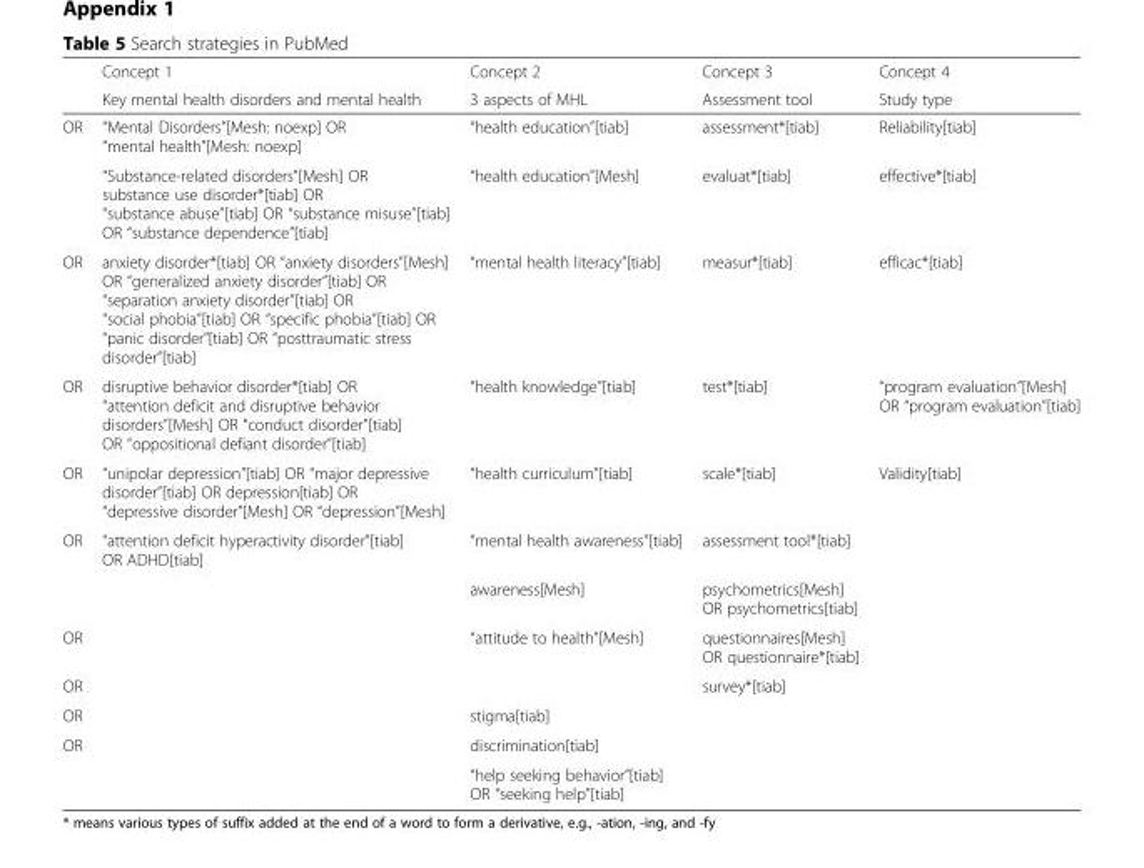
<table><thead><tr><td rowspan="2"></td><td rowspan="2">Concept 1 Key mental health disorders and mental health</td><td rowspan="2">Concept 2 3 aspects of MHL</td><td rowspan="2">Concept 3 Assessment tool</td><td rowspan="2">Concept 4 Study type</td></tr><tr></tr></thead><tbody><tr><td rowspan="2">OR</td><td>“Mental Disorders”[Mesh: noexp] OR “mental health”[Mesh: noexp]</td><td>“health education”[tiab]</td><td>assessment*[tiab]</td><td>Reliability[tiab]</td></tr><tr><td>“Substance-related disorders”[Mesh] OR substance use disorder*[tiab] OR “substance abuse”[tiab] OR “substance misuse”[tiab] OR “substance dependence”[tiab]</td><td>“health education”[Mesh]</td><td>evaluat*[tiab]</td><td>effective*[tiab]</td></tr><tr><td>OR</td><td>anxiety disorder*[tiab] OR “anxiety disorders”[Mesh] OR “generalized anxiety disorder”[tiab] OR “separation anxiety disorder”[tiab] OR “social phobia”[tiab] OR “specific phobia”[tiab] OR “panic disorder”[tiab] OR “posttraumatic stress disorder”[tiab]</td><td>“mental health literacy”[tiab]</td><td>measur*[tiab]</td><td>efficac*[tiab]</td></tr><tr><td>OR</td><td>disruptive behavior disorder*[tiab] OR “attention deficit and disruptive behavior disorders”[Mesh] OR “conduct disorder”[tiab] OR “oppositional defiant disorder”[tiab]</td><td>“health knowledge”[tiab]</td><td>test*[tiab]</td><td>“program evaluation”[Mesh] OR “program evaluation”[tiab]</td></tr><tr><td>OR</td><td>“unipolar depression”[tiab] OR “major depressive disorder”[tiab] OR depression[tiab] OR “depressive disorder”[Mesh] OR “depression”[Mesh]</td><td>“health curriculum”[tiab]</td><td>scale*[tiab]</td><td>Validity[tiab]</td></tr><tr><td rowspan="2">OR</td><td>“attention deficit hyperactivity disorder”[tiab] OR ADHD[tiab]</td><td>“mental health awareness”[tiab]</td><td>assessment tool*[tiab]</td><td></td></tr><tr><td></td><td>awareness[Mesh]</td><td>psychometrics[Mesh] OR psychometrics[tiab]</td><td></td></tr><tr><td>OR</td><td></td><td>“attitude to health”[Mesh]</td><td>questionnaires[Mesh] OR questionnaire*[tiab]</td><td></td></tr><tr><td>OR</td><td></td><td></td><td>survey*[tiab]</td><td></td></tr><tr><td>OR</td><td></td><td>stigma[tiab]</td><td></td><td></td></tr><tr><td rowspan="2">OR</td><td></td><td>discrimination[tiab]</td><td></td><td></td></tr><tr><td></td><td>“help seeking behavior”[tiab] OR “seeking help”[tiab]</td><td></td><td></td></tr></tbody></table>